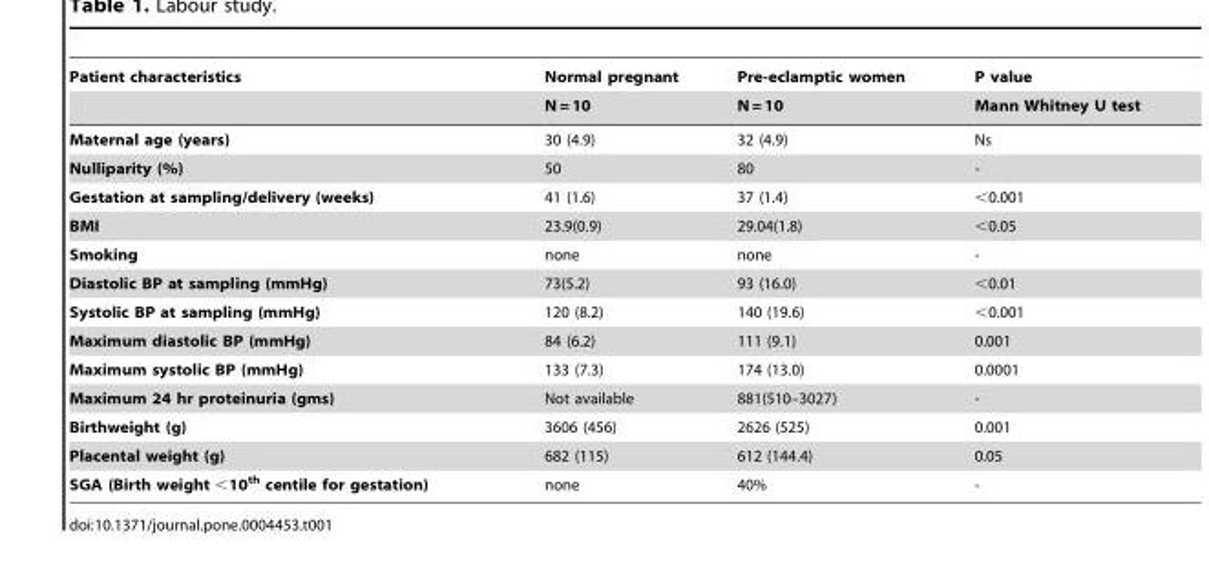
<table><thead><tr><td rowspan="2">Patient characteristics</td><td rowspan="2">Normal pregnant N = 10</td><td rowspan="2">Pre-eclamptic women N = 10</td><td rowspan="2">P value Mann Whitney U test</td></tr><tr></tr></thead><tbody><tr><td>Maternal age (years)</td><td>30 (4.9)</td><td>32 (4.9)</td><td>Ns</td></tr><tr><td>Nulliparity (%)</td><td>50</td><td>80</td><td>-</td></tr><tr><td>Gestation at sampling/delivery (weeks)</td><td>41 (1.6)</td><td>37 (1.4)</td><td>&lt;0.001</td></tr><tr><td>BMI</td><td>23.9(0.9)</td><td>29.04(1.8)</td><td>&lt;0.05</td></tr><tr><td>Smoking</td><td>none</td><td>none</td><td>-</td></tr><tr><td>Diastolic BP at sampling (mmHg)</td><td>73(5.2)</td><td>93 (16.0)</td><td>&lt;0.01</td></tr><tr><td>Systolic BP at sampling (mmHg)</td><td>120 (8.2)</td><td>140 (19.6)</td><td>&lt;0.001</td></tr><tr><td>Maximum diastolic BP (mmHg)</td><td>84 (6.2)</td><td>111 (9.1)</td><td>0.001</td></tr><tr><td>Maximum systolic BP (mmHg)</td><td>133 (7.3)</td><td>174 (13.0)</td><td>0.0001</td></tr><tr><td>Maximum 24 hr proteinuria (gms)</td><td>Not available</td><td>881(510–3027)</td><td>-</td></tr><tr><td>Birthweight (g)</td><td>3606 (456)</td><td>2626 (525)</td><td>0.001</td></tr><tr><td>Placental weight (g)</td><td>682 (115)</td><td>612 (144.4)</td><td>0.05</td></tr><tr><td>SGA (Birth weight &lt;10<sup>th</sup> centile for gestation)</td><td>none</td><td>40%</td><td>-</td></tr></tbody></table>